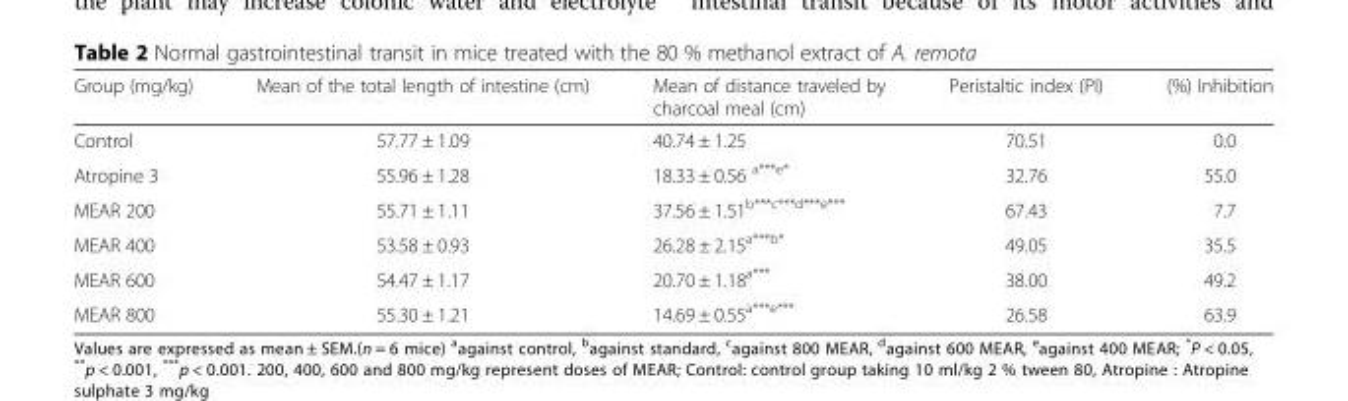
<table><thead><tr><td>Group (mg/kg)</td><td>Mean of the total length of intestine (cm)</td><td>Mean of distance traveled by charcoal meal (cm)</td><td>Peristaltic index (PI)</td><td>(%) Inhibition</td></tr></thead><tbody><tr><td>Control</td><td>57.77 ± 1.09</td><td>40.74 ± 1.25</td><td>70.51</td><td>0.0</td></tr><tr><td>Atropine 3</td><td>55.96 ± 1.28</td><td>18.33 ± 0.56 <sup>a***e*</sup></td><td>32.76</td><td>55.0</td></tr><tr><td>MEAR 200</td><td>55.71 ± 1.11</td><td>37.56 ± 1.51<sup>b***c***d***e***</sup></td><td>67.43</td><td>7.7</td></tr><tr><td>MEAR 400</td><td>53.58 ± 0.93</td><td>26.28 ± 2.15<sup>a***b*</sup></td><td>49.05</td><td>35.5</td></tr><tr><td>MEAR 600</td><td>54.47 ± 1.17</td><td>20.70 ± 1.18<sup>a***</sup></td><td>38.00</td><td>49.2</td></tr><tr><td>MEAR 800</td><td>55.30 ± 1.21</td><td>14.69 ± 0.55<sup>a***e***</sup></td><td>26.58</td><td>63.9</td></tr></tbody></table>